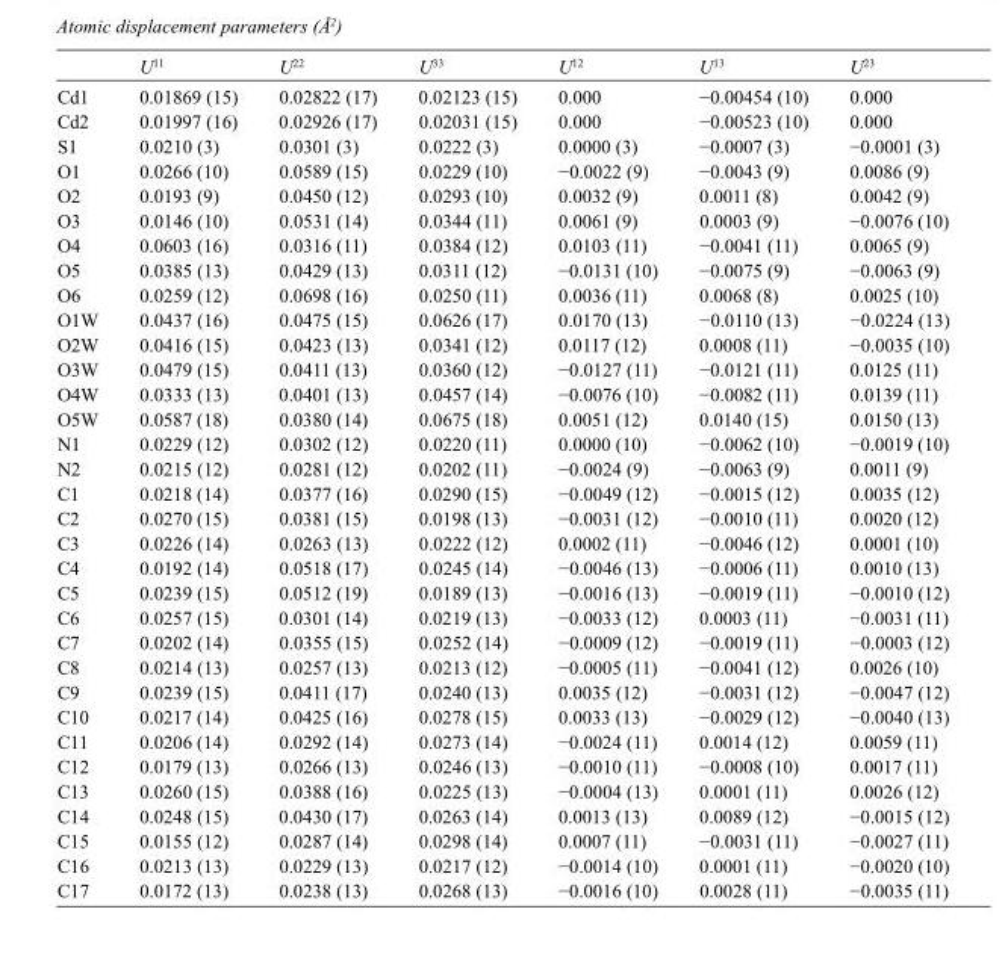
<table><thead><tr><td></td><td>U<sup>11</sup></td><td>U<sup>22</sup></td><td>U<sup>33</sup></td><td>U<sup>12</sup></td><td>U<sup>13</sup></td><td>U<sup>23</sup></td></tr></thead><tbody><tr><td>Cd1</td><td>0.01869 (15)</td><td>0.02822 (17)</td><td>0.02123 (15)</td><td>0.000</td><td>−0.00454 (10)</td><td>0.000</td></tr><tr><td>Cd2</td><td>0.01997 (16)</td><td>0.02926 (17)</td><td>0.02031 (15)</td><td>0.000</td><td>−0.00523 (10)</td><td>0.000</td></tr><tr><td>S1</td><td>0.0210 (3)</td><td>0.0301 (3)</td><td>0.0222 (3)</td><td>0.0000 (3)</td><td>−0.0007 (3)</td><td>−0.0001 (3)</td></tr><tr><td>O1</td><td>0.0266 (10)</td><td>0.0589 (15)</td><td>0.0229 (10)</td><td>−0.0022 (9)</td><td>−0.0043 (9)</td><td>0.0086 (9)</td></tr><tr><td>O2</td><td>0.0193 (9)</td><td>0.0450 (12)</td><td>0.0293 (10)</td><td>0.0032 (9)</td><td>0.0011 (8)</td><td>0.0042 (9)</td></tr><tr><td>O3</td><td>0.0146 (10)</td><td>0.0531 (14)</td><td>0.0344 (11)</td><td>0.0061 (9)</td><td>0.0003 (9)</td><td>−0.0076 (10)</td></tr><tr><td>O4</td><td>0.0603 (16)</td><td>0.0316 (11)</td><td>0.0384 (12)</td><td>0.0103 (11)</td><td>−0.0041 (11)</td><td>0.0065 (9)</td></tr><tr><td>O5</td><td>0.0385 (13)</td><td>0.0429 (13)</td><td>0.0311 (12)</td><td>−0.0131 (10)</td><td>−0.0075 (9)</td><td>−0.0063 (9)</td></tr><tr><td>O6</td><td>0.0259 (12)</td><td>0.0698 (16)</td><td>0.0250 (11)</td><td>0.0036 (11)</td><td>0.0068 (8)</td><td>0.0025 (10)</td></tr><tr><td>O1W</td><td>0.0437 (16)</td><td>0.0475 (15)</td><td>0.0626 (17)</td><td>0.0170 (13)</td><td>−0.0110 (13)</td><td>−0.0224 (13)</td></tr><tr><td>O2W</td><td>0.0416 (15)</td><td>0.0423 (13)</td><td>0.0341 (12)</td><td>0.0117 (12)</td><td>0.0008 (11)</td><td>−0.0035 (10)</td></tr><tr><td>O3W</td><td>0.0479 (15)</td><td>0.0411 (13)</td><td>0.0360 (12)</td><td>−0.0127 (11)</td><td>−0.0121 (11)</td><td>0.0125 (11)</td></tr><tr><td>O4W</td><td>0.0333 (13)</td><td>0.0401 (13)</td><td>0.0457 (14)</td><td>−0.0076 (10)</td><td>−0.0082 (11)</td><td>0.0139 (11)</td></tr><tr><td>O5W</td><td>0.0587 (18)</td><td>0.0380 (14)</td><td>0.0675 (18)</td><td>0.0051 (12)</td><td>0.0140 (15)</td><td>0.0150 (13)</td></tr><tr><td>N1</td><td>0.0229 (12)</td><td>0.0302 (12)</td><td>0.0220 (11)</td><td>0.0000 (10)</td><td>−0.0062 (10)</td><td>−0.0019 (10)</td></tr><tr><td>N2</td><td>0.0215 (12)</td><td>0.0281 (12)</td><td>0.0202 (11)</td><td>−0.0024 (9)</td><td>−0.0063 (9)</td><td>0.0011 (9)</td></tr><tr><td>C1</td><td>0.0218 (14)</td><td>0.0377 (16)</td><td>0.0290 (15)</td><td>−0.0049 (12)</td><td>−0.0015 (12)</td><td>0.0035 (12)</td></tr><tr><td>C2</td><td>0.0270 (15)</td><td>0.0381 (15)</td><td>0.0198 (13)</td><td>−0.0031 (12)</td><td>−0.0010 (11)</td><td>0.0020 (12)</td></tr><tr><td>C3</td><td>0.0226 (14)</td><td>0.0263 (13)</td><td>0.0222 (12)</td><td>0.0002 (11)</td><td>−0.0046 (12)</td><td>0.0001 (10)</td></tr><tr><td>C4</td><td>0.0192 (14)</td><td>0.0518 (17)</td><td>0.0245 (14)</td><td>−0.0046 (13)</td><td>−0.0006 (11)</td><td>0.0010 (13)</td></tr><tr><td>C5</td><td>0.0239 (15)</td><td>0.0512 (19)</td><td>0.0189 (13)</td><td>−0.0016 (13)</td><td>−0.0019 (11)</td><td>−0.0010 (12)</td></tr><tr><td>C6</td><td>0.0257 (15)</td><td>0.0301 (14)</td><td>0.0219 (13)</td><td>−0.0033 (12)</td><td>0.0003 (11)</td><td>−0.0031 (11)</td></tr><tr><td>C7</td><td>0.0202 (14)</td><td>0.0355 (15)</td><td>0.0252 (14)</td><td>−0.0009 (12)</td><td>−0.0019 (11)</td><td>−0.0003 (12)</td></tr><tr><td>C8</td><td>0.0214 (13)</td><td>0.0257 (13)</td><td>0.0213 (12)</td><td>−0.0005 (11)</td><td>−0.0041 (12)</td><td>0.0026 (10)</td></tr><tr><td>C9</td><td>0.0239 (15)</td><td>0.0411 (17)</td><td>0.0240 (13)</td><td>0.0035 (12)</td><td>−0.0031 (12)</td><td>−0.0047 (12)</td></tr><tr><td>C10</td><td>0.0217 (14)</td><td>0.0425 (16)</td><td>0.0278 (15)</td><td>0.0033 (13)</td><td>−0.0029 (12)</td><td>−0.0040 (13)</td></tr><tr><td>C11</td><td>0.0206 (14)</td><td>0.0292 (14)</td><td>0.0273 (14)</td><td>−0.0024 (11)</td><td>0.0014 (12)</td><td>0.0059 (11)</td></tr><tr><td>C12</td><td>0.0179 (13)</td><td>0.0266 (13)</td><td>0.0246 (13)</td><td>−0.0010 (11)</td><td>−0.0008 (10)</td><td>0.0017 (11)</td></tr><tr><td>C13</td><td>0.0260 (15)</td><td>0.0388 (16)</td><td>0.0225 (13)</td><td>−0.0004 (13)</td><td>0.0001 (11)</td><td>0.0026 (12)</td></tr><tr><td>C14</td><td>0.0248 (15)</td><td>0.0430 (17)</td><td>0.0263 (14)</td><td>0.0013 (13)</td><td>0.0089 (12)</td><td>−0.0015 (12)</td></tr><tr><td>C15</td><td>0.0155 (12)</td><td>0.0287 (14)</td><td>0.0298 (14)</td><td>0.0007 (11)</td><td>−0.0031 (11)</td><td>−0.0027 (11)</td></tr><tr><td>C16</td><td>0.0213 (13)</td><td>0.0229 (13)</td><td>0.0217 (12)</td><td>−0.0014 (10)</td><td>0.0001 (11)</td><td>−0.0020 (10)</td></tr><tr><td>C17</td><td>0.0172 (13)</td><td>0.0238 (13)</td><td>0.0268 (13)</td><td>−0.0016 (10)</td><td>0.0028 (11)</td><td>−0.0035 (11)</td></tr></tbody></table>